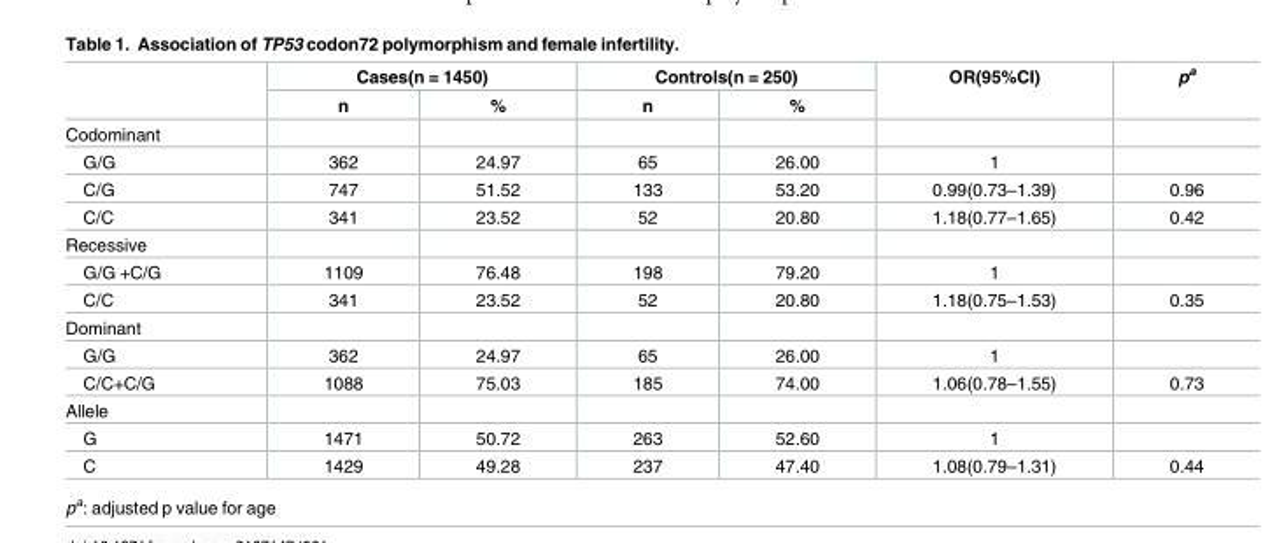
<table><thead><tr><td rowspan="2"></td><td colspan="2">Cases(n = 1450)</td><td colspan="2">Controls(n = 250)</td><td rowspan="2">OR(95%CI)</td><td rowspan="2">p<sup>a</sup></td></tr><tr><td>n</td><td>%</td><td>n</td><td>%</td></tr></thead><tbody><tr><td colspan="7">Codominant</td></tr><tr><td>G/G</td><td>362</td><td>24.97</td><td>65</td><td>26.00</td><td>1</td><td></td></tr><tr><td>C/G</td><td>747</td><td>51.52</td><td>133</td><td>53.20</td><td>0.99(0.73–1.39)</td><td>0.96</td></tr><tr><td>C/C</td><td>341</td><td>23.52</td><td>52</td><td>20.80</td><td>1.18(0.77–1.65)</td><td>0.42</td></tr><tr><td colspan="7">Recessive</td></tr><tr><td>G/G +C/G</td><td>1109</td><td>76.48</td><td>198</td><td>79.20</td><td>1</td><td></td></tr><tr><td>C/C</td><td>341</td><td>23.52</td><td>52</td><td>20.80</td><td>1.18(0.75–1.53)</td><td>0.35</td></tr><tr><td colspan="7">Dominant</td></tr><tr><td>G/G</td><td>362</td><td>24.97</td><td>65</td><td>26.00</td><td>1</td><td></td></tr><tr><td>C/C+C/G</td><td>1088</td><td>75.03</td><td>185</td><td>74.00</td><td>1.06(0.78–1.55)</td><td>0.73</td></tr><tr><td colspan="7">Allele</td></tr><tr><td>G</td><td>1471</td><td>50.72</td><td>263</td><td>52.60</td><td>1</td><td></td></tr><tr><td>C</td><td>1429</td><td>49.28</td><td>237</td><td>47.40</td><td>1.08(0.79–1.31)</td><td>0.44</td></tr></tbody></table>